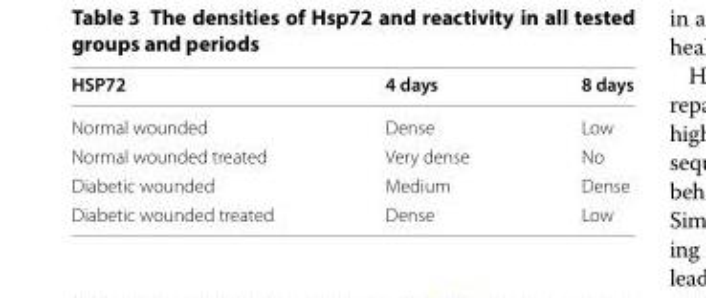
<table><thead><tr><td>HSP72</td><td>4 days</td><td>8 days</td></tr></thead><tbody><tr><td>Normal wounded</td><td>Dense</td><td>Low</td></tr><tr><td>Normal wounded treated</td><td>Very dense</td><td>No</td></tr><tr><td>Diabetic wounded</td><td>Medium</td><td>Dense</td></tr><tr><td>Diabetic wounded treated</td><td>Dense</td><td>Low</td></tr></tbody></table>